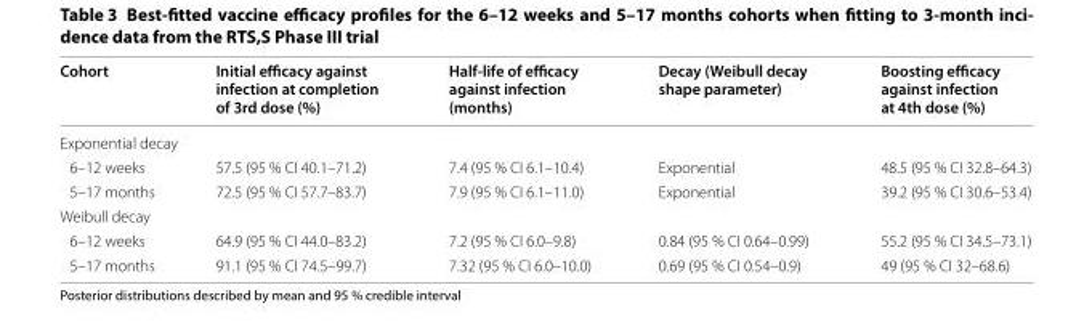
<table><thead><tr><td>Cohort</td><td>Initial efficacy against infection at completion of 3rd dose (%)</td><td>Half‑life of efficacy against infection (months)</td><td>Decay (Weibull decay shape parameter)</td><td>Boosting efficacy against infection at 4th dose (%)</td></tr></thead><tbody><tr><td colspan="5">Exponential decay</td></tr><tr><td>6–12 weeks</td><td>57.5 (95 % CI 40.1–71.2)</td><td>7.4 (95 % CI 6.1–10.4)</td><td>Exponential</td><td>48.5 (95 % CI 32.8–64.3)</td></tr><tr><td>5–17 months</td><td>72.5 (95 % CI 57.7–83.7)</td><td>7.9 (95 % CI 6.1–11.0)</td><td>Exponential</td><td>39.2 (95 % CI 30.6–53.4)</td></tr><tr><td colspan="5">Weibull decay</td></tr><tr><td>6–12 weeks</td><td>64.9 (95 % CI 44.0–83.2)</td><td>7.2 (95 % CI 6.0–9.8)</td><td>0.84 (95 % CI 0.64–0.99)</td><td>55.2 (95 % CI 34.5–73.1)</td></tr><tr><td>5–17 months</td><td>91.1 (95 % CI 74.5–99.7)</td><td>7.32 (95 % CI 6.0–10.0)</td><td>0.69 (95 % CI 0.54–0.9)</td><td>49 (95 % CI 32–68.6)</td></tr></tbody></table>